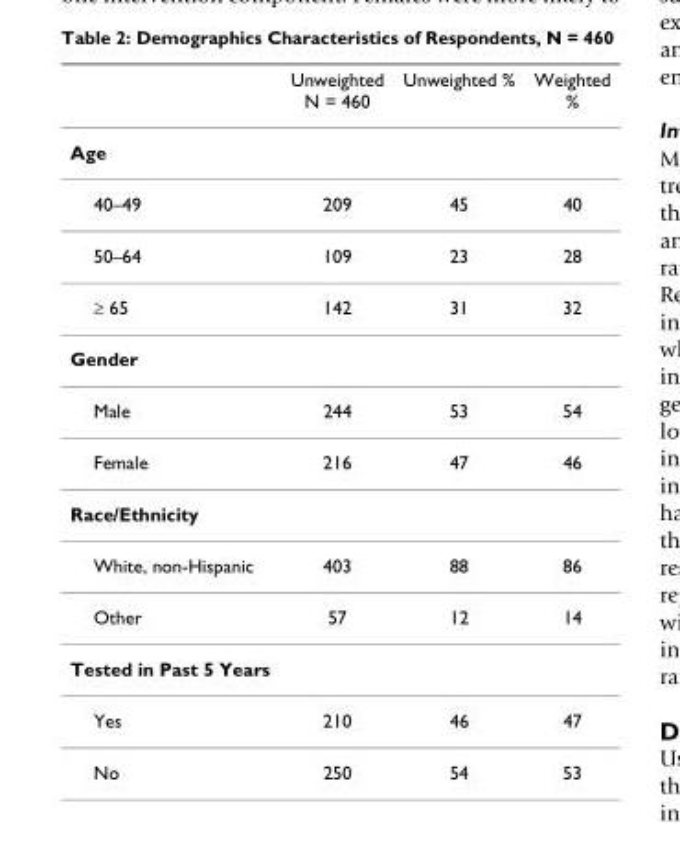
<table><thead><tr><td></td><td>Unweighted N = 460</td><td>Unweighted %</td><td>Weighted %</td></tr></thead><tbody><tr><td colspan="4">Age</td></tr><tr><td>40–49</td><td>209</td><td>45</td><td>40</td></tr><tr><td>50–64</td><td>109</td><td>23</td><td>28</td></tr><tr><td>≥ 65</td><td>142</td><td>31</td><td>32</td></tr><tr><td colspan="4">Gender</td></tr><tr><td>Male</td><td>244</td><td>53</td><td>54</td></tr><tr><td>Female</td><td>216</td><td>47</td><td>46</td></tr><tr><td colspan="4">Race/Ethnicity</td></tr><tr><td>White, non-Hispanic</td><td>403</td><td>88</td><td>86</td></tr><tr><td>Other</td><td>57</td><td>12</td><td>14</td></tr><tr><td colspan="4">Tested in Past 5 Years</td></tr><tr><td>Yes</td><td>210</td><td>46</td><td>47</td></tr><tr><td>No</td><td>250</td><td>54</td><td>53</td></tr></tbody></table>